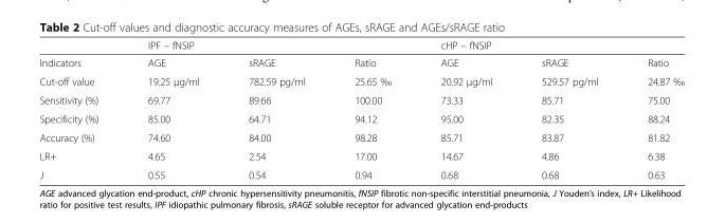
<table><thead><tr><td rowspan="2">Indicators</td><td colspan="3">IPF – fNSIP</td><td colspan="3">cHP – fNSIP</td></tr><tr><td>AGE</td><td>sRAGE</td><td>Ratio</td><td>AGE</td><td>sRAGE</td><td>Ratio</td></tr></thead><tbody><tr><td>Cut-off value</td><td>19.25 μg/ml</td><td>782.59 pg/ml</td><td>25.65 ‰</td><td>20.92 μg/ml</td><td>529.57 pg/ml</td><td>24.87 ‰</td></tr><tr><td>Sensitivity (%)</td><td>69.77</td><td>89.66</td><td>100.00</td><td>73.33</td><td>85.71</td><td>75.00</td></tr><tr><td>Specificity (%)</td><td>85.00</td><td>64.71</td><td>94.12</td><td>95.00</td><td>82.35</td><td>88.24</td></tr><tr><td>Accuracy (%)</td><td>74.60</td><td>84.00</td><td>98.28</td><td>85.71</td><td>83.87</td><td>81.82</td></tr><tr><td>LR+</td><td>4.65</td><td>2.54</td><td>17.00</td><td>14.67</td><td>4.86</td><td>6.38</td></tr><tr><td>J</td><td>0.55</td><td>0.54</td><td>0.94</td><td>0.68</td><td>0.68</td><td>0.63</td></tr></tbody></table>